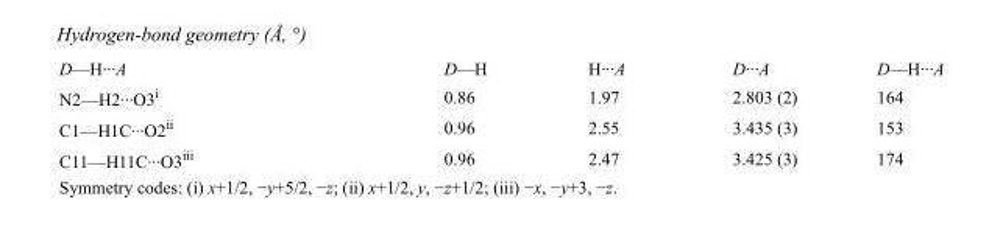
<table><tbody><tr><td>D—H···A</td><td>D—H</td><td>H···A</td><td>D···A</td><td>D—H···A</td></tr><tr><td>N2—H2···O3<sup>i</sup></td><td>0.86</td><td>1.97</td><td>2.803 (2)</td><td>164</td></tr><tr><td>C1—H1C···O2<sup>ii</sup></td><td>0.96</td><td>2.55</td><td>3.435 (3)</td><td>153</td></tr><tr><td>C11—H11C···O3<sup>iii</sup></td><td>0.96</td><td>2.47</td><td>3.425 (3)</td><td>174</td></tr></tbody></table>